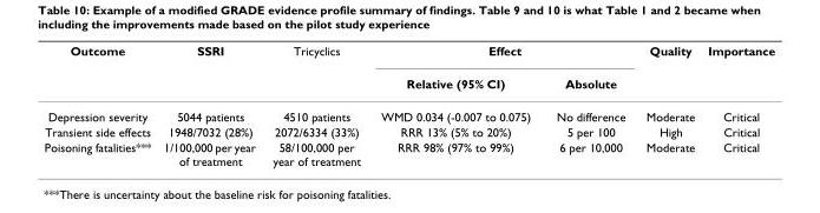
<table><thead><tr><td rowspan="2">Outcome</td><td rowspan="2">SSRI</td><td rowspan="2">Tricyclics</td><td colspan="2">Effect</td><td rowspan="2">Quality</td><td rowspan="2">Importance</td></tr><tr><td>Relative (95% CI)</td><td>Absolute</td></tr></thead><tbody><tr><td>Depression severity</td><td>5044 patients</td><td>4510 patients</td><td>WMD 0.034 (-0.007 to 0.075)</td><td>No difference</td><td>Moderate</td><td>Critical</td></tr><tr><td>Transient side effects</td><td>1948/7032 (28%)</td><td>2072/6334 (33%)</td><td>RRR 13% (5% to 20%)</td><td>5 per 100</td><td>High</td><td>Critical</td></tr><tr><td>Poisoning fatalities***</td><td>1/100,000 per year of treatment</td><td>58/100,000 per year of treatment</td><td>RRR 98% (97% to 99%)</td><td>6 per 10,000</td><td>Moderate</td><td>Critical</td></tr></tbody></table>